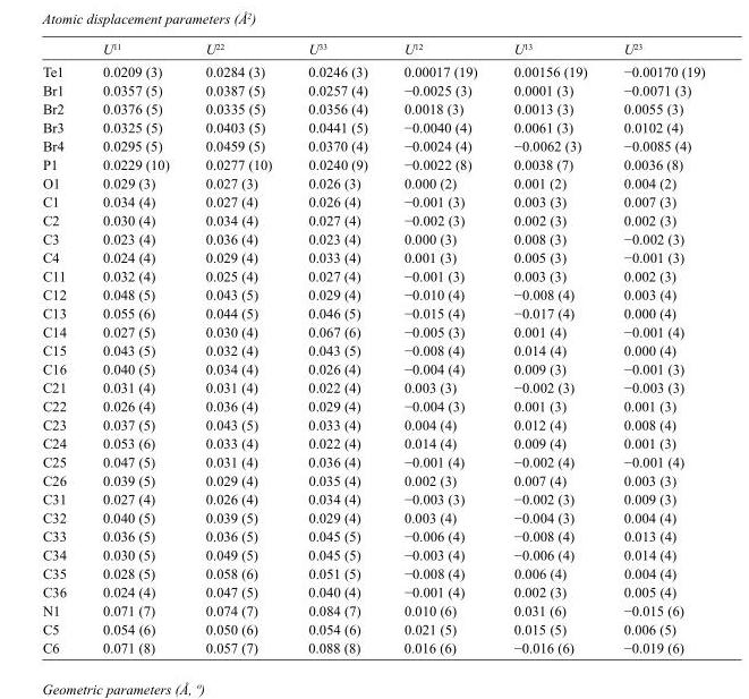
<table><thead><tr><td></td><td>U<sup>11</sup></td><td>U<sup>22</sup></td><td>U<sup>33</sup></td><td>U<sup>12</sup></td><td>U<sup>13</sup></td><td>U<sup>23</sup></td></tr></thead><tbody><tr><td>Te1</td><td>0.0209 (3)</td><td>0.0284 (3)</td><td>0.0246 (3)</td><td>0.00017 (19)</td><td>0.00156 (19)</td><td>−0.00170 (19)</td></tr><tr><td>Br1</td><td>0.0357 (5)</td><td>0.0387 (5)</td><td>0.0257 (4)</td><td>−0.0025 (3)</td><td>0.0001 (3)</td><td>−0.0071 (3)</td></tr><tr><td>Br2</td><td>0.0376 (5)</td><td>0.0335 (5)</td><td>0.0356 (4)</td><td>0.0018 (3)</td><td>0.0013 (3)</td><td>0.0055 (3)</td></tr><tr><td>Br3</td><td>0.0325 (5)</td><td>0.0403 (5)</td><td>0.0441 (5)</td><td>−0.0040 (4)</td><td>0.0061 (3)</td><td>0.0102 (4)</td></tr><tr><td>Br4</td><td>0.0295 (5)</td><td>0.0459 (5)</td><td>0.0370 (4)</td><td>−0.0024 (4)</td><td>−0.0062 (3)</td><td>−0.0085 (4)</td></tr><tr><td>P1</td><td>0.0229 (10)</td><td>0.0277 (10)</td><td>0.0240 (9)</td><td>−0.0022 (8)</td><td>0.0038 (7)</td><td>0.0036 (8)</td></tr><tr><td>O1</td><td>0.029 (3)</td><td>0.027 (3)</td><td>0.026 (3)</td><td>0.000 (2)</td><td>0.001 (2)</td><td>0.004 (2)</td></tr><tr><td>C1</td><td>0.034 (4)</td><td>0.027 (4)</td><td>0.026 (4)</td><td>−0.001 (3)</td><td>0.003 (3)</td><td>0.007 (3)</td></tr><tr><td>C2</td><td>0.030 (4)</td><td>0.034 (4)</td><td>0.027 (4)</td><td>−0.002 (3)</td><td>0.002 (3)</td><td>0.002 (3)</td></tr><tr><td>C3</td><td>0.023 (4)</td><td>0.036 (4)</td><td>0.023 (4)</td><td>0.000 (3)</td><td>0.008 (3)</td><td>−0.002 (3)</td></tr><tr><td>C4</td><td>0.024 (4)</td><td>0.029 (4)</td><td>0.033 (4)</td><td>0.001 (3)</td><td>0.005 (3)</td><td>−0.001 (3)</td></tr><tr><td>C11</td><td>0.032 (4)</td><td>0.025 (4)</td><td>0.027 (4)</td><td>−0.001 (3)</td><td>0.003 (3)</td><td>0.002 (3)</td></tr><tr><td>C12</td><td>0.048 (5)</td><td>0.043 (5)</td><td>0.029 (4)</td><td>−0.010 (4)</td><td>−0.008 (4)</td><td>0.003 (4)</td></tr><tr><td>C13</td><td>0.055 (6)</td><td>0.044 (5)</td><td>0.046 (5)</td><td>−0.015 (4)</td><td>−0.017 (4)</td><td>0.000 (4)</td></tr><tr><td>C14</td><td>0.027 (5)</td><td>0.030 (4)</td><td>0.067 (6)</td><td>−0.005 (3)</td><td>0.001 (4)</td><td>−0.001 (4)</td></tr><tr><td>C15</td><td>0.043 (5)</td><td>0.032 (4)</td><td>0.043 (5)</td><td>−0.008 (4)</td><td>0.014 (4)</td><td>0.000 (4)</td></tr><tr><td>C16</td><td>0.040 (5)</td><td>0.034 (4)</td><td>0.026 (4)</td><td>−0.004 (4)</td><td>0.009 (3)</td><td>−0.001 (3)</td></tr><tr><td>C21</td><td>0.031 (4)</td><td>0.031 (4)</td><td>0.022 (4)</td><td>0.003 (3)</td><td>−0.002 (3)</td><td>−0.003 (3)</td></tr><tr><td>C22</td><td>0.026 (4)</td><td>0.036 (4)</td><td>0.029 (4)</td><td>−0.004 (3)</td><td>0.001 (3)</td><td>0.001 (3)</td></tr><tr><td>C23</td><td>0.037 (5)</td><td>0.043 (5)</td><td>0.033 (4)</td><td>0.004 (4)</td><td>0.012 (4)</td><td>0.008 (4)</td></tr><tr><td>C24</td><td>0.053 (6)</td><td>0.033 (4)</td><td>0.022 (4)</td><td>0.014 (4)</td><td>0.009 (4)</td><td>0.001 (3)</td></tr><tr><td>C25</td><td>0.047 (5)</td><td>0.031 (4)</td><td>0.036 (4)</td><td>−0.001 (4)</td><td>−0.002 (4)</td><td>−0.001 (4)</td></tr><tr><td>C26</td><td>0.039 (5)</td><td>0.029 (4)</td><td>0.035 (4)</td><td>0.002 (3)</td><td>0.007 (4)</td><td>0.003 (3)</td></tr><tr><td>C31</td><td>0.027 (4)</td><td>0.026 (4)</td><td>0.034 (4)</td><td>−0.003 (3)</td><td>−0.002 (3)</td><td>0.009 (3)</td></tr><tr><td>C32</td><td>0.040 (5)</td><td>0.039 (5)</td><td>0.029 (4)</td><td>0.003 (4)</td><td>−0.004 (3)</td><td>0.004 (4)</td></tr><tr><td>C33</td><td>0.036 (5)</td><td>0.036 (5)</td><td>0.045 (5)</td><td>−0.006 (4)</td><td>−0.008 (4)</td><td>0.013 (4)</td></tr><tr><td>C34</td><td>0.030 (5)</td><td>0.049 (5)</td><td>0.045 (5)</td><td>−0.003 (4)</td><td>−0.006 (4)</td><td>0.014 (4)</td></tr><tr><td>C35</td><td>0.028 (5)</td><td>0.058 (6)</td><td>0.051 (5)</td><td>−0.008 (4)</td><td>0.006 (4)</td><td>0.004 (4)</td></tr><tr><td>C36</td><td>0.024 (4)</td><td>0.047 (5)</td><td>0.040 (4)</td><td>−0.001 (4)</td><td>0.002 (3)</td><td>0.005 (4)</td></tr><tr><td>N1</td><td>0.071 (7)</td><td>0.074 (7)</td><td>0.084 (7)</td><td>0.010 (6)</td><td>0.031 (6)</td><td>−0.015 (6)</td></tr><tr><td>C5</td><td>0.054 (6)</td><td>0.050 (6)</td><td>0.054 (6)</td><td>0.021 (5)</td><td>0.015 (5)</td><td>0.006 (5)</td></tr><tr><td>C6</td><td>0.071 (8)</td><td>0.057 (7)</td><td>0.088 (8)</td><td>0.016 (6)</td><td>−0.016 (6)</td><td>−0.019 (6)</td></tr></tbody></table>